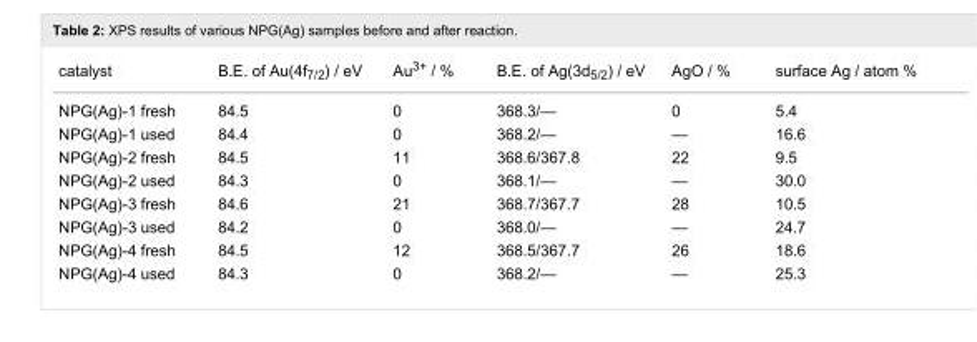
<table><tbody><tr><td>catalyst</td><td>B.E. of Au(4f<sub>7/2</sub>) / eV</td><td>Au<sup>3+</sup> / %</td><td>B.E. of Ag(3d<sub>5/2</sub>) / eV</td><td>AgO / %</td><td>surface Ag / atom %</td></tr><tr><td>NPG(Ag)-1 fresh</td><td>84.5</td><td>0</td><td>368.3/—</td><td>0</td><td>5.4</td></tr><tr><td>NPG(Ag)-1 used</td><td>84.4</td><td>0</td><td>368.2/—</td><td>—</td><td>16.6</td></tr><tr><td>NPG(Ag)-2 fresh</td><td>84.5</td><td>11</td><td>368.6/367.8</td><td>22</td><td>9.5</td></tr><tr><td>NPG(Ag)-2 used</td><td>84.3</td><td>0</td><td>368.1/—</td><td>—</td><td>30.0</td></tr><tr><td>NPG(Ag)-3 fresh</td><td>84.6</td><td>21</td><td>368.7/367.7</td><td>28</td><td>10.5</td></tr><tr><td>NPG(Ag)-3 used</td><td>84.2</td><td>0</td><td>368.0/—</td><td>—</td><td>24.7</td></tr><tr><td>NPG(Ag)-4 fresh</td><td>84.5</td><td>12</td><td>368.5/367.7</td><td>26</td><td>18.6</td></tr><tr><td>NPG(Ag)-4 used</td><td>84.3</td><td>0</td><td>368.2/—</td><td>—</td><td>25.3</td></tr></tbody></table>